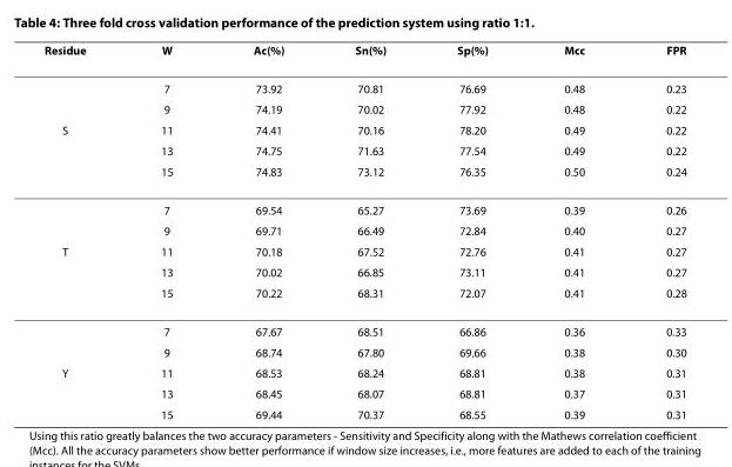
<table><thead><tr><td>Residue</td><td>W</td><td>Ac(%)</td><td>Sn(%)</td><td>Sp(%)</td><td>Mcc</td><td>FPR</td></tr></thead><tbody><tr><td></td><td>7</td><td>73.92</td><td>70.81</td><td>76.69</td><td>0.48</td><td>0.23</td></tr><tr><td></td><td>9</td><td>74.19</td><td>70.02</td><td>77.92</td><td>0.48</td><td>0.22</td></tr><tr><td rowspan="5">S</td><td>11</td><td>74.41</td><td>70.16</td><td>78.20</td><td>0.49</td><td>0.22</td></tr><tr><td>13</td><td>74.75</td><td>71.63</td><td>77.54</td><td>0.49</td><td>0.22</td></tr><tr><td>15</td><td>74.83</td><td>73.12</td><td>76.35</td><td>0.50</td><td>0.24</td></tr><tr><td>7</td><td>69.54</td><td>65.27</td><td>73.69</td><td>0.39</td><td>0.26</td></tr><tr><td>9</td><td>69.71</td><td>66.49</td><td>72.84</td><td>0.40</td><td>0.27</td></tr><tr><td rowspan="5">T</td><td>11</td><td>70.18</td><td>67.52</td><td>72.76</td><td>0.41</td><td>0.27</td></tr><tr><td>13</td><td>70.02</td><td>66.85</td><td>73.11</td><td>0.41</td><td>0.27</td></tr><tr><td>15</td><td>70.22</td><td>68.31</td><td>72.07</td><td>0.41</td><td>0.28</td></tr><tr><td>7</td><td>67.67</td><td>68.51</td><td>66.86</td><td>0.36</td><td>0.33</td></tr><tr><td>9</td><td>68.74</td><td>67.80</td><td>69.66</td><td>0.38</td><td>0.30</td></tr><tr><td rowspan="3">Y</td><td>11</td><td>68.53</td><td>68.24</td><td>68.81</td><td>0.38</td><td>0.31</td></tr><tr><td>13</td><td>68.45</td><td>68.07</td><td>68.81</td><td>0.37</td><td>0.31</td></tr><tr><td>15</td><td>69.44</td><td>70.37</td><td>68.55</td><td>0.39</td><td>0.31</td></tr></tbody></table>